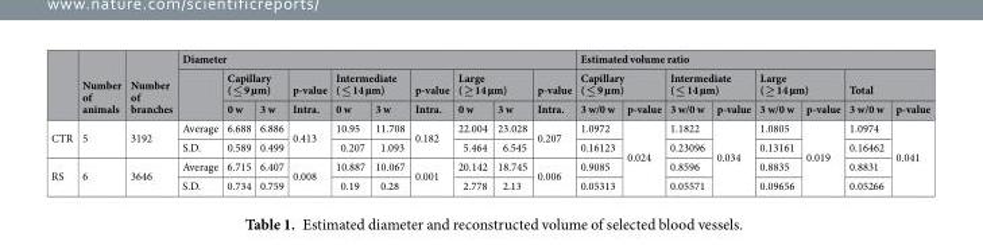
<table><thead><tr><td rowspan="3"></td><td rowspan="3">Number of animals</td><td rowspan="3">Number of branches</td><td colspan="10">Diameter</td><td colspan="8">Estimated volume ratio</td></tr><tr><td rowspan="2"></td><td colspan="2">Capillary ( ≤ 9 µm)</td><td rowspan="2">p-value Intra.</td><td colspan="2">Intermediate ( ≤ 14 µm)</td><td rowspan="2">p-value Intra.</td><td colspan="2">Large ( ≥ 14 µm)</td><td rowspan="2">p-value Intra.</td><td colspan="2">Capillary ( ≤ 9 µm)</td><td colspan="2">Intermediate ( ≤ 14 µm)</td><td colspan="2">Large ( ≥ 14 µm)</td><td colspan="2">Total</td></tr><tr><td>0 w</td><td>3 w</td><td>0 w</td><td>3 w</td><td>0 w</td><td>3 w</td><td>3 w/0 w</td><td>p-value</td><td>3 w/0 w</td><td>p-value</td><td>3 w/0 w</td><td>p-value</td><td>3 w/0 w</td><td>p-value</td></tr></thead><tbody><tr><td rowspan="2">CTR</td><td rowspan="2">5</td><td rowspan="2">3192</td><td>Average</td><td>6.688</td><td>6.886</td><td rowspan="2">0.413</td><td>10.95</td><td>11.708</td><td rowspan="2">0.182</td><td>22.004</td><td>23.028</td><td rowspan="2">0.207</td><td>1.0972</td><td rowspan="4">0.024</td><td>1.1822</td><td rowspan="4">0.034</td><td>1.0805</td><td rowspan="4">0.019</td><td>1.0974</td><td rowspan="4">0.041</td></tr><tr><td>S.D.</td><td>0.589</td><td>0.499</td><td>0.207</td><td>1.093</td><td>5.464</td><td>6.545</td><td>0.16123</td><td>0.23096</td><td>0.13161</td><td>0.16462</td></tr><tr><td rowspan="2">RS</td><td rowspan="2">6</td><td rowspan="2">3646</td><td>Average</td><td>6.715</td><td>6.407</td><td rowspan="2">0.008</td><td>10.887</td><td>10.067</td><td rowspan="2">0.001</td><td>20.142</td><td>18.745</td><td rowspan="2">0.006</td><td>0.9085</td><td>0.8596</td><td>0.8835</td><td>0.8831</td></tr><tr><td>S.D.</td><td>0.734</td><td>0.759</td><td>0.19</td><td>0.28</td><td>2.778</td><td>2.13</td><td>0.05313</td><td>0.05571</td><td>0.09656</td><td>0.05266</td></tr></tbody></table>